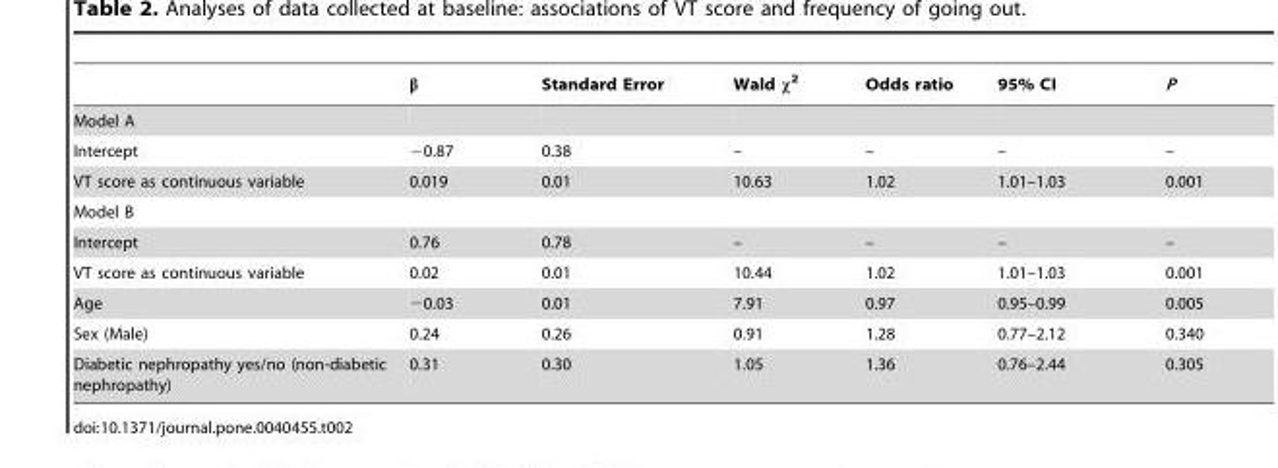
<table><thead><tr><td></td><td>β</td><td>Standard Error</td><td>Wald χ<sup>2</sup></td><td>Odds ratio</td><td>95% CI</td><td>P</td></tr></thead><tbody><tr><td colspan="7">Model A</td></tr><tr><td>Intercept</td><td>−0.87</td><td>0.38</td><td>–</td><td>–</td><td>–</td><td>–</td></tr><tr><td>VT score as continuous variable</td><td>0.019</td><td>0.01</td><td>10.63</td><td>1.02</td><td>1.01–1.03</td><td>0.001</td></tr><tr><td colspan="7">Model B</td></tr><tr><td>Intercept</td><td>0.76</td><td>0.78</td><td>–</td><td>–</td><td>–</td><td>–</td></tr><tr><td>VT score as continuous variable</td><td>0.02</td><td>0.01</td><td>10.44</td><td>1.02</td><td>1.01–1.03</td><td>0.001</td></tr><tr><td>Age</td><td>−0.03</td><td>0.01</td><td>7.91</td><td>0.97</td><td>0.95–0.99</td><td>0.005</td></tr><tr><td>Sex (Male)</td><td>0.24</td><td>0.26</td><td>0.91</td><td>1.28</td><td>0.77–2.12</td><td>0.340</td></tr><tr><td>Diabetic nephropathy yes/no (non-diabetic nephropathy)</td><td>0.31</td><td>0.30</td><td>1.05</td><td>1.36</td><td>0.76–2.44</td><td>0.305</td></tr></tbody></table>